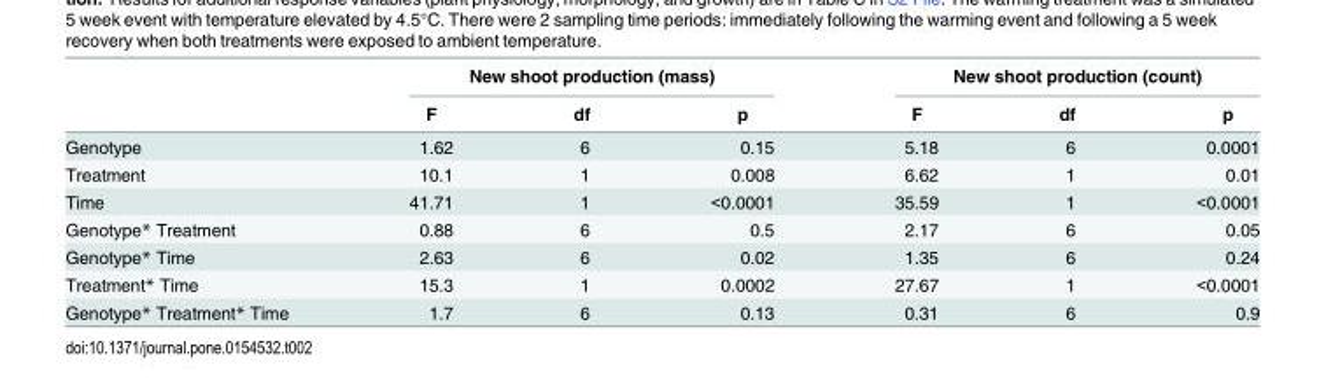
<table><thead><tr><td rowspan="2"></td><td colspan="3">New shoot production (mass)</td><td colspan="3">New shoot production (count)</td></tr><tr><td>F</td><td>df</td><td>p</td><td>F</td><td>df</td><td>p</td></tr></thead><tbody><tr><td>Genotype</td><td>1.62</td><td>6</td><td>0.15</td><td>5.18</td><td>6</td><td>0.0001</td></tr><tr><td>Treatment</td><td>10.1</td><td>1</td><td>0.008</td><td>6.62</td><td>1</td><td>0.01</td></tr><tr><td>Time</td><td>41.71</td><td>1</td><td>&lt;0.0001</td><td>35.59</td><td>1</td><td>&lt;0.0001</td></tr><tr><td>Genotype* Treatment</td><td>0.88</td><td>6</td><td>0.5</td><td>2.17</td><td>6</td><td>0.05</td></tr><tr><td>Genotype* Time</td><td>2.63</td><td>6</td><td>0.02</td><td>1.35</td><td>6</td><td>0.24</td></tr><tr><td>Treatment* Time</td><td>15.3</td><td>1</td><td>0.0002</td><td>27.67</td><td>1</td><td>&lt;0.0001</td></tr><tr><td>Genotype* Treatment* Time</td><td>1.7</td><td>6</td><td>0.13</td><td>0.31</td><td>6</td><td>0.9</td></tr></tbody></table>